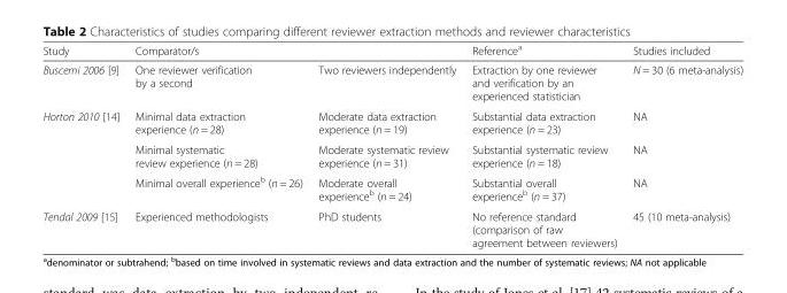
<table><thead><tr><td>Study</td><td>Comparator/s</td><td></td><td>Reference<sup>a</sup></td><td>Studies included</td></tr></thead><tbody><tr><td>Buscemi 2006 [9]</td><td>One reviewer verification by a second</td><td>Two reviewers independently</td><td>Extraction by one reviewer and verification by an experienced statistician</td><td>N = 30 (6 meta-analysis)</td></tr><tr><td rowspan="3">Horton 2010 [14]</td><td>Minimal data extraction experience (n = 28)</td><td>Moderate data extraction experience (n = 19)</td><td>Substantial data extraction experience (n = 23)</td><td>NA</td></tr><tr><td>Minimal systematic review experience (n = 28)</td><td>Moderate systematic review experience (n = 31)</td><td>Substantial systematic review experience (n = 18)</td><td>NA</td></tr><tr><td>Minimal overall experience<sup>b</sup> (n = 26)</td><td>Moderate overall experience<sup>b</sup> (n = 24)</td><td>Substantial overall experience<sup>b</sup> (n = 37)</td><td>NA</td></tr><tr><td>Tendal 2009 [15]</td><td>Experienced methodologists</td><td>PhD students</td><td>No reference standard (comparison of raw agreement between reviewers)</td><td>45 (10 meta-analysis)</td></tr></tbody></table>